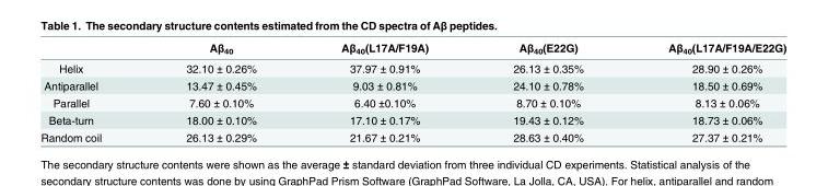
<table><thead><tr><td></td><td>Aβ<sub>40</sub></td><td>Aβ<sub>40</sub>(L17A/F19A)</td><td>Aβ<sub>40</sub>(E22G)</td><td>Aβ<sub>40</sub>(L17A/F19A/E22G)</td></tr></thead><tbody><tr><td>Helix</td><td>32.10 ± 0.26%</td><td>37.97 ± 0.91%</td><td>26.13 ± 0.35%</td><td>28.90 ± 0.26%</td></tr><tr><td>Antiparallel</td><td>13.47 ± 0.45%</td><td>9.03 ± 0.81%</td><td>24.10 ± 0.78%</td><td>18.50 ± 0.69%</td></tr><tr><td>Parallel</td><td>7.60 ± 0.10%</td><td>6.40 ±0.10%</td><td>8.70 ± 0.10%</td><td>8.13 ± 0.06%</td></tr><tr><td>Beta-turn</td><td>18.00 ± 0.10%</td><td>17.10 ± 0.17%</td><td>19.43 ± 0.12%</td><td>18.73 ± 0.06%</td></tr><tr><td>Random coil</td><td>26.13 ± 0.29%</td><td>21.67 ± 0.21%</td><td>28.63 ± 0.40%</td><td>27.37 ± 0.21%</td></tr></tbody></table>